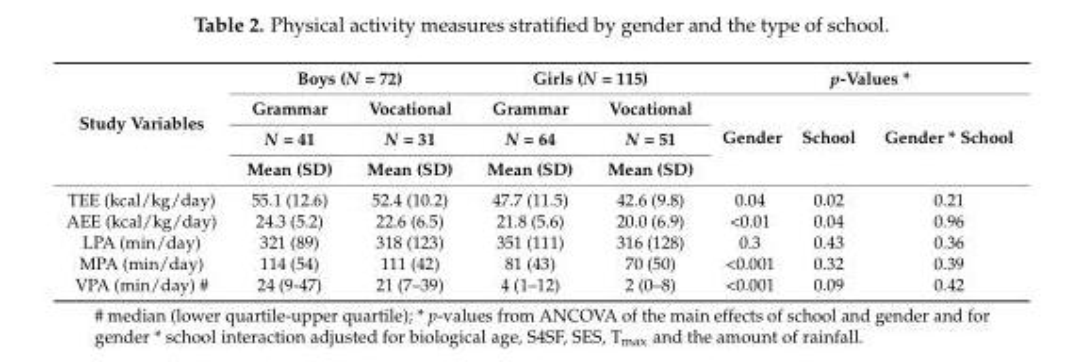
<table><thead><tr><td rowspan="4">Study Variables</td><td colspan="2">Boys (N = 72)</td><td colspan="2">Girls (N = 115)</td><td colspan="3">p-Values *</td></tr><tr><td rowspan="3">Grammar N = 41 Mean (SD)</td><td rowspan="3">Vocational N = 31 Mean (SD)</td><td rowspan="3">Grammar N = 64 Mean (SD)</td><td rowspan="3">Vocational N = 51 Mean (SD)</td><td rowspan="3">Gender</td><td rowspan="3">School</td><td rowspan="3">Gender * School</td></tr><tr></tr><tr></tr></thead><tbody><tr><td>TEE (kcal/kg/day)</td><td>55.1 (12.6)</td><td>52.4 (10.2)</td><td>47.7 (11.5)</td><td>42.6 (9.8)</td><td>0.04</td><td>0.02</td><td>0.21</td></tr><tr><td>AEE (kcal/kg/day)</td><td>24.3 (5.2)</td><td>22.6 (6.5)</td><td>21.8 (5.6)</td><td>20.0 (6.9)</td><td>&lt;0.01</td><td>0.04</td><td>0.96</td></tr><tr><td>LPA (min/day)</td><td>321 (89)</td><td>318 (123)</td><td>351 (111)</td><td>316 (128)</td><td>0.3</td><td>0.43</td><td>0.36</td></tr><tr><td>MPA (min/day)</td><td>114 (54)</td><td>111 (42)</td><td>81 (43)</td><td>70 (50)</td><td>&lt;0.001</td><td>0.32</td><td>0.39</td></tr><tr><td>VPA (min/day) #</td><td>24 (9-47)</td><td>21 (7–39)</td><td>4 (1–12)</td><td>2 (0–8)</td><td>&lt;0.001</td><td>0.09</td><td>0.42</td></tr></tbody></table>